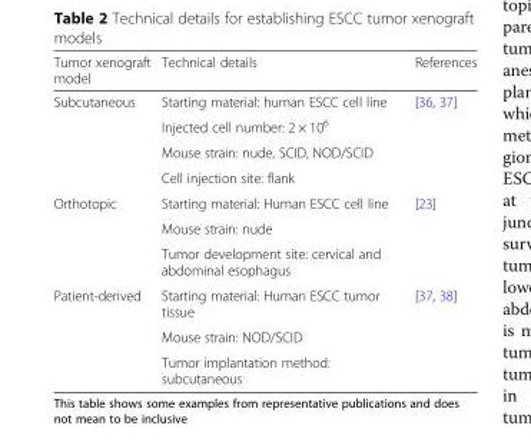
<table><thead><tr><td>Tumor xenograft model</td><td>Technical details</td><td>References</td></tr></thead><tbody><tr><td rowspan="4">Subcutaneous</td><td>Starting material: human ESCC cell line</td><td rowspan="4">[36, 37]</td></tr><tr><td>Injected cell number: 2 × 10<sup>6</sup></td></tr><tr><td>Mouse strain: nude, SCID, NOD/SCID</td></tr><tr><td>Cell injection site: flank</td></tr><tr><td rowspan="3">Orthotopic</td><td>Starting material: Human ESCC cell line</td><td rowspan="3">[23]</td></tr><tr><td>Mouse strain: nude</td></tr><tr><td>Tumor development site: cervical and abdominal esophagus</td></tr><tr><td rowspan="3">Patient-derived</td><td>Starting material: Human ESCC tumor tissue</td><td rowspan="3">[37, 38]</td></tr><tr><td>Mouse strain: NOD/SCID</td></tr><tr><td>Tumor implantation method: subcutaneous</td></tr></tbody></table>